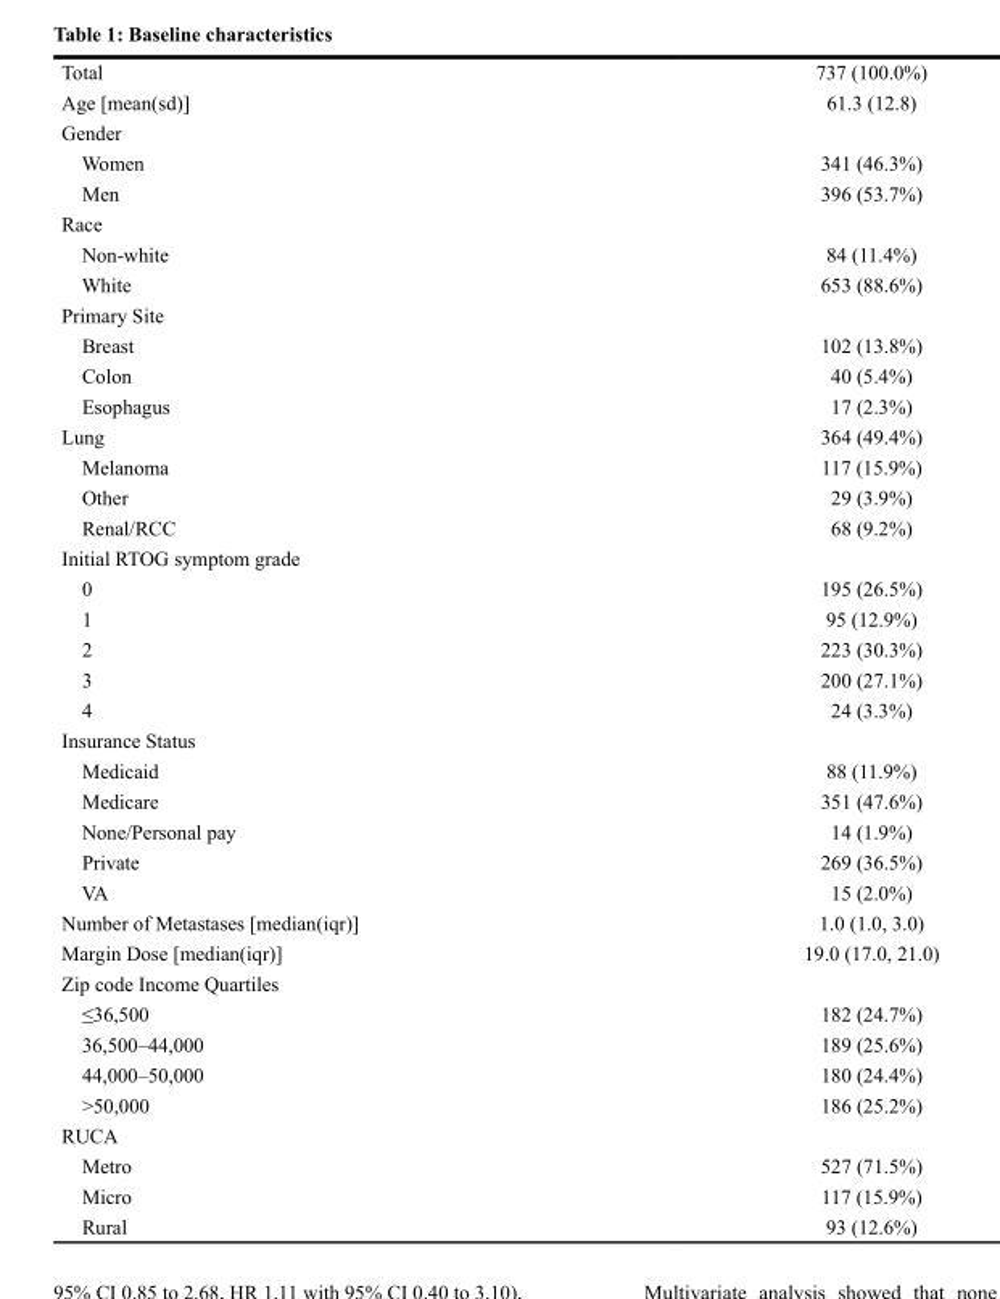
<table><tbody><tr><td>Total</td><td>737 (100.0%)</td></tr><tr><td>Age [mean(sd)]</td><td>61.3 (12.8)</td></tr><tr><td colspan="2">Gender</td></tr><tr><td>Women</td><td>341 (46.3%)</td></tr><tr><td>Men</td><td>396 (53.7%)</td></tr><tr><td colspan="2">Race</td></tr><tr><td>Non-white</td><td>84 (11.4%)</td></tr><tr><td>White</td><td>653 (88.6%)</td></tr><tr><td colspan="2">Primary Site</td></tr><tr><td>Breast</td><td>102 (13.8%)</td></tr><tr><td>Colon</td><td>40 (5.4%)</td></tr><tr><td>Esophagus</td><td>17 (2.3%)</td></tr><tr><td>Lung</td><td>364 (49.4%)</td></tr><tr><td>Melanoma</td><td>117 (15.9%)</td></tr><tr><td>Other</td><td>29 (3.9%)</td></tr><tr><td>Renal/RCC</td><td>68 (9.2%)</td></tr><tr><td colspan="2">Initial RTOG symptom grade</td></tr><tr><td>0</td><td>195 (26.5%)</td></tr><tr><td>1</td><td>95 (12.9%)</td></tr><tr><td>2</td><td>223 (30.3%)</td></tr><tr><td>3</td><td>200 (27.1%)</td></tr><tr><td>4</td><td>24 (3.3%)</td></tr><tr><td colspan="2">Insurance Status</td></tr><tr><td>Medicaid</td><td>88 (11.9%)</td></tr><tr><td>Medicare</td><td>351 (47.6%)</td></tr><tr><td>None/Personal pay</td><td>14 (1.9%)</td></tr><tr><td>Private</td><td>269 (36.5%)</td></tr><tr><td>VA</td><td>15 (2.0%)</td></tr><tr><td>Number of Metastases [median(iqr)]</td><td>1.0 (1.0, 3.0)</td></tr><tr><td>Margin Dose [median(iqr)]</td><td>19.0 (17.0, 21.0)</td></tr><tr><td colspan="2">Zip code Income Quartiles</td></tr><tr><td>≤36,500</td><td>182 (24.7%)</td></tr><tr><td>36,500–44,000</td><td>189 (25.6%)</td></tr><tr><td>44,000–50,000</td><td>180 (24.4%)</td></tr><tr><td>&gt;50,000</td><td>186 (25.2%)</td></tr><tr><td colspan="2">RUCA</td></tr><tr><td>Metro</td><td>527 (71.5%)</td></tr><tr><td>Micro</td><td>117 (15.9%)</td></tr><tr><td>Rural</td><td>93 (12.6%)</td></tr></tbody></table>